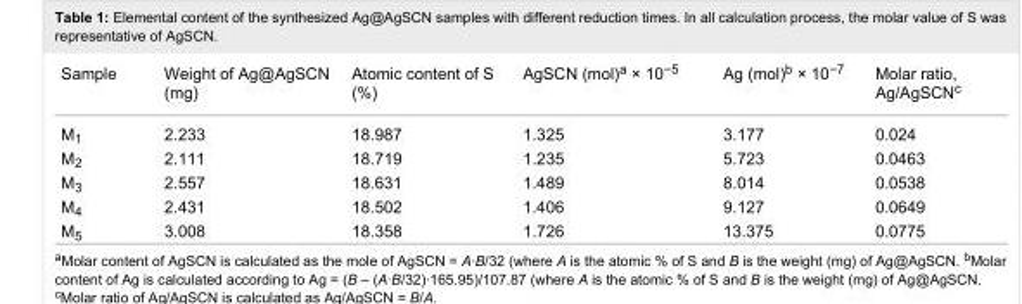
<table><tbody><tr><td>Sample</td><td>Weight of Ag@AgSCN (mg)</td><td>Atomic content of S (%)</td><td>AgSCN (mol)<sup>a</sup> × 10<sup>−5</sup></td><td>Ag (mol)<sup>b</sup> × 10<sup>−7</sup></td><td>Molar ratio, Ag/AgSCN<sup>c</sup></td></tr><tr><td>M<sub>1</sub></td><td>2.233</td><td>18.987</td><td>1.325</td><td>3.177</td><td>0.024</td></tr><tr><td>M<sub>2</sub></td><td>2.111</td><td>18.719</td><td>1.235</td><td>5.723</td><td>0.0463</td></tr><tr><td>M<sub>3</sub></td><td>2.557</td><td>18.631</td><td>1.489</td><td>8.014</td><td>0.0538</td></tr><tr><td>M<sub>4</sub></td><td>2.431</td><td>18.502</td><td>1.406</td><td>9.127</td><td>0.0649</td></tr><tr><td>M<sub>5</sub></td><td>3.008</td><td>18.358</td><td>1.726</td><td>13.375</td><td>0.0775</td></tr></tbody></table>